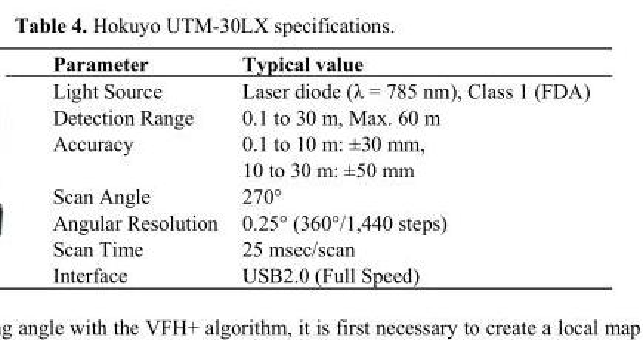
<table><thead><tr><td>Parameter</td><td>Typical value</td></tr></thead><tbody><tr><td>Light Source</td><td>Laser diode (λ = 785 nm), Class 1 (FDA)</td></tr><tr><td>Detection Range</td><td>0.1 to 30 m, Max. 60 m</td></tr><tr><td>Accuracy</td><td>0.1 to 10 m: ±30 mm, 10 to 30 m: ±50 mm</td></tr><tr><td>Scan Angle</td><td>270°</td></tr><tr><td>Angular Resolution</td><td>0.25° (360°/1,440 steps)</td></tr><tr><td>Scan Time</td><td>25 msec/scan</td></tr><tr><td>Interface</td><td>USB2.0 (Full Speed)</td></tr></tbody></table>